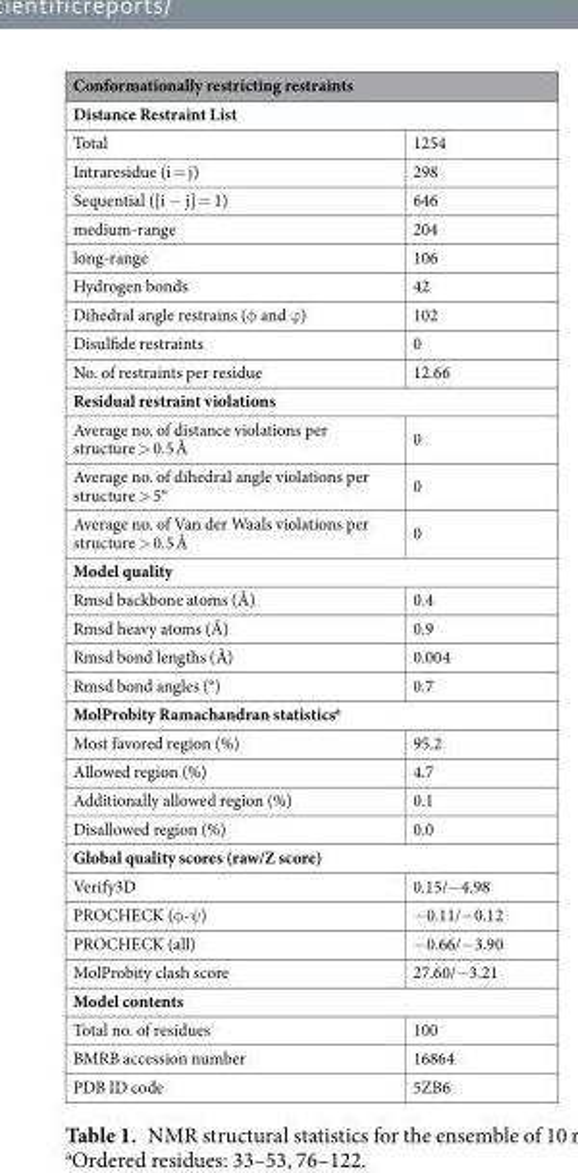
<table><thead><tr><td rowspan="2" colspan="2">Conformationally restricting restraints Distance Restraint List</td></tr><tr></tr><tr><td>Total</td><td>1254</td></tr></thead><tbody><tr><td>Intraresidue (i = j)</td><td>298</td></tr><tr><td>Sequential ([i − j] = 1)</td><td>646</td></tr><tr><td>medium-range</td><td>204</td></tr><tr><td>long-range</td><td>106</td></tr><tr><td>Hydrogen bonds</td><td>42</td></tr><tr><td>Dihedral angle restrains (φ and ϕ)</td><td>102</td></tr><tr><td>Disulfide restraints</td><td>0</td></tr><tr><td>No. of restraints per residue</td><td>12.66</td></tr><tr><td colspan="2">Residual restraint violations</td></tr><tr><td>Average no. of distance violations per structure &gt; 0.5 Å</td><td>0</td></tr><tr><td>Average no. of dihedral angle violations per structure &gt; 5°</td><td>0</td></tr><tr><td>Average no. of Van der Waals violations per structure &gt; 0.5 Å</td><td>0</td></tr><tr><td colspan="2">Model quality</td></tr><tr><td>Rmsd backbone atoms (Å)</td><td>0.4</td></tr><tr><td>Rmsd heavy atoms (Å)</td><td>0.9</td></tr><tr><td>Rmsd bond lengths (Å)</td><td>0.004</td></tr><tr><td>Rmsd bond angles (°)</td><td>0.7</td></tr><tr><td colspan="2">MolProbity Ramachandran statistics<sup>a</sup></td></tr><tr><td>Most favored region (%)</td><td>95.2</td></tr><tr><td>Allowed region (%)</td><td>4.7</td></tr><tr><td>Additionally allowed region (%)</td><td>0.1</td></tr><tr><td>Disallowed region (%)</td><td>0.0</td></tr><tr><td colspan="2">Global quality scores (raw/Z score)</td></tr><tr><td>Verify3D</td><td>0.15/−4.98</td></tr><tr><td>PROCHECK (φ-ψ)</td><td>−0.11/−0.12</td></tr><tr><td>PROCHECK (all)</td><td>−0.66/−3.90</td></tr><tr><td>MolProbity clash score</td><td>27.60/−3.21</td></tr><tr><td colspan="2">Model contents</td></tr><tr><td>Total no. of residues</td><td>100</td></tr><tr><td>BMRB accession number</td><td>16864</td></tr><tr><td>PDB ID code</td><td>5ZB6</td></tr></tbody></table>